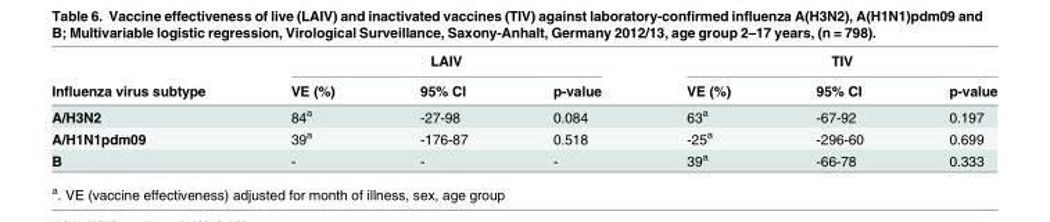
<table><thead><tr><td rowspan="2">Influenza virus subtype</td><td colspan="3">LAIV</td><td colspan="3">TIV</td></tr><tr><td>VE (%)</td><td>95% CI</td><td>p-value</td><td>VE (%)</td><td>95% CI</td><td>p-value</td></tr></thead><tbody><tr><td>A/H3N2</td><td>84<sup>a</sup></td><td>-27-98</td><td>0.084</td><td>63<sup>a</sup></td><td>-67-92</td><td>0.197</td></tr><tr><td>A/H1N1pdm09</td><td>39<sup>a</sup></td><td>-176-87</td><td>0.518</td><td>-25<sup>a</sup></td><td>-296-60</td><td>0.699</td></tr><tr><td>B</td><td>-</td><td>-</td><td>-</td><td>39<sup>a</sup></td><td>-66-78</td><td>0.333</td></tr></tbody></table>